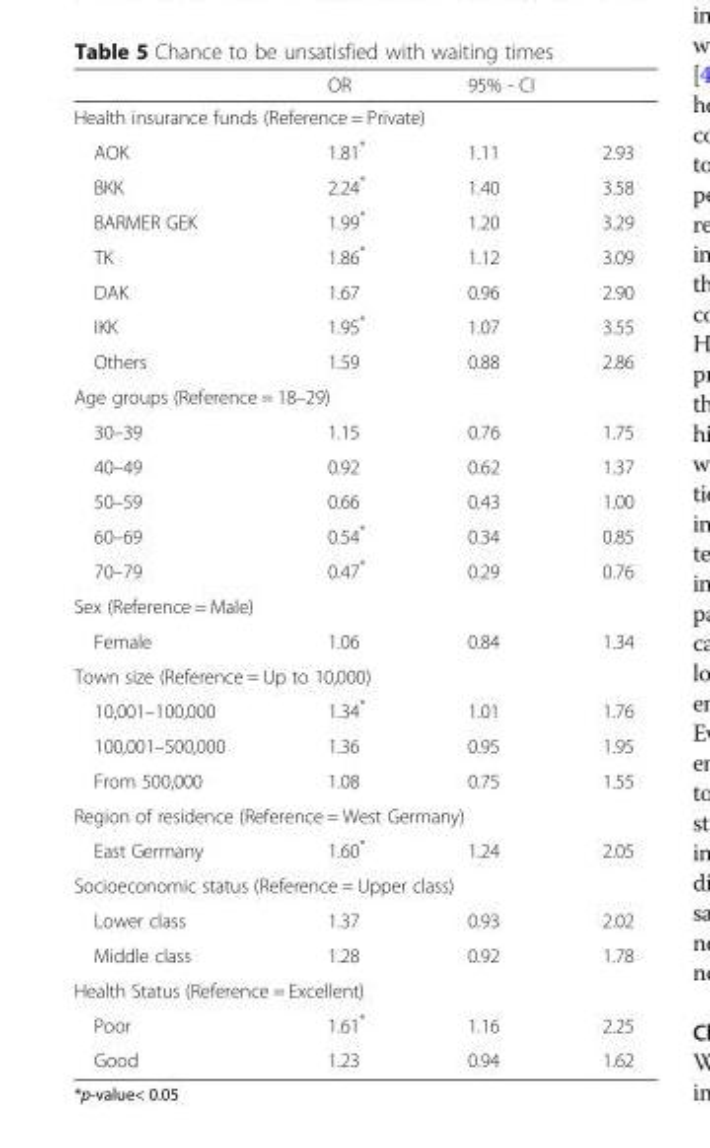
<table><thead><tr><td></td><td>OR</td><td colspan="2">95% - CI</td></tr><tr><td colspan="4">Health insurance funds (Reference = Private)</td></tr><tr><td>AOK</td><td>1.81*</td><td>1.11</td><td>2.93</td></tr></thead><tbody><tr><td>BKK</td><td>2.24*</td><td>1.40</td><td>3.58</td></tr><tr><td>BARMER GEK</td><td>1.99*</td><td>1.20</td><td>3.29</td></tr><tr><td>TK</td><td>1.86*</td><td>1.12</td><td>3.09</td></tr><tr><td>DAK</td><td>1.67</td><td>0.96</td><td>2.90</td></tr><tr><td>IKK</td><td>1.95*</td><td>1.07</td><td>3.55</td></tr><tr><td>Others</td><td>1.59</td><td>0.88</td><td>2.86</td></tr><tr><td colspan="4">Age groups (Reference = 18–29)</td></tr><tr><td>30–39</td><td>1.15</td><td>0.76</td><td>1.75</td></tr><tr><td>40–49</td><td>0.92</td><td>0.62</td><td>1.37</td></tr><tr><td>50–59</td><td>0.66</td><td>0.43</td><td>1.00</td></tr><tr><td>60–69</td><td>0.54*</td><td>0.34</td><td>0.85</td></tr><tr><td>70–79</td><td>0.47*</td><td>0.29</td><td>0.76</td></tr><tr><td colspan="4">Sex (Reference = Male)</td></tr><tr><td>Female</td><td>1.06</td><td>0.84</td><td>1.34</td></tr><tr><td colspan="4">Town size (Reference = Up to 10,000)</td></tr><tr><td>10,001–100,000</td><td>1.34*</td><td>1.01</td><td>1.76</td></tr><tr><td>100,001–500,000</td><td>1.36</td><td>0.95</td><td>1.95</td></tr><tr><td>From 500,000</td><td>1.08</td><td>0.75</td><td>1.55</td></tr><tr><td colspan="4">Region of residence (Reference = West Germany)</td></tr><tr><td>East Germany</td><td>1.60*</td><td>1.24</td><td>2.05</td></tr><tr><td colspan="4">Socioeconomic status (Reference = Upper class)</td></tr><tr><td>Lower class</td><td>1.37</td><td>0.93</td><td>2.02</td></tr><tr><td>Middle class</td><td>1.28</td><td>0.92</td><td>1.78</td></tr><tr><td colspan="4">Health Status (Reference = Excellent)</td></tr><tr><td>Poor</td><td>1.61*</td><td>1.16</td><td>2.25</td></tr><tr><td>Good</td><td>1.23</td><td>0.94</td><td>1.62</td></tr></tbody></table>